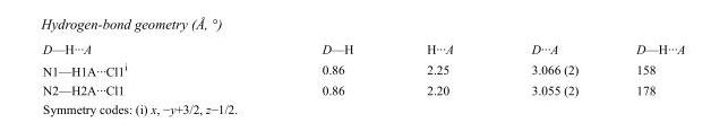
<table><tbody><tr><td>D—H···A</td><td>D—H</td><td>H···A</td><td>D···A</td><td>D—H···A</td></tr><tr><td>N1—H1A···Cl1<sup>i</sup></td><td>0.86</td><td>2.25</td><td>3.066 (2)</td><td>158</td></tr><tr><td>N2—H2A···Cl1</td><td>0.86</td><td>2.20</td><td>3.055 (2)</td><td>178</td></tr></tbody></table>